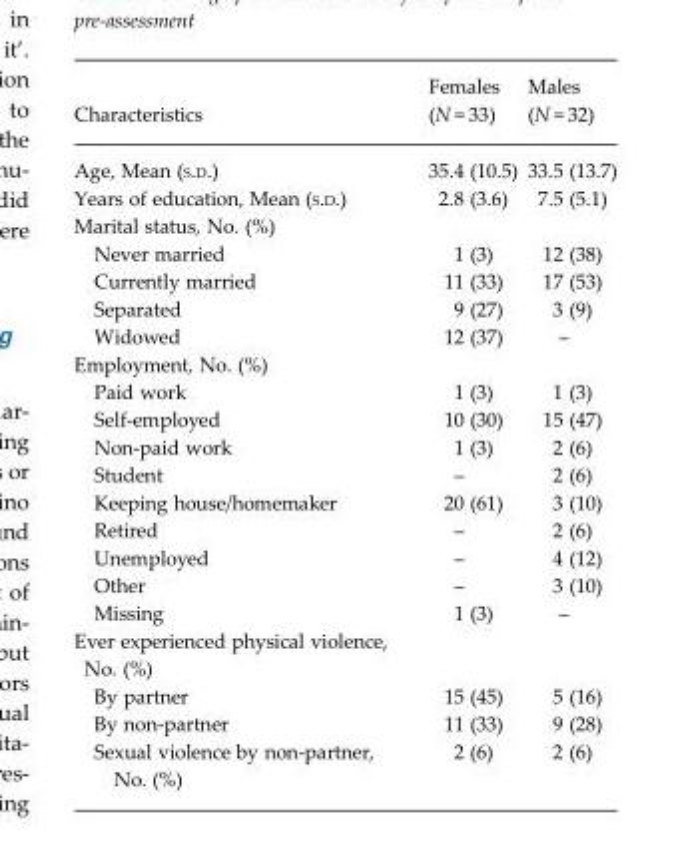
<table><thead><tr><td>Characteristics</td><td>Females (N = 33)</td><td>Males (N = 32)</td></tr></thead><tbody><tr><td>Age, Mean (S.D.)</td><td>35.4 (10.5)</td><td>33.5 (13.7)</td></tr><tr><td>Years of education, Mean (S.D.)</td><td>2.8 (3.6)</td><td>7.5 (5.1)</td></tr><tr><td colspan="3">Marital status, No. (%)</td></tr><tr><td>Never married</td><td>1 (3)</td><td>12 (38)</td></tr><tr><td>Currently married</td><td>11 (33)</td><td>17 (53)</td></tr><tr><td>Separated</td><td>9 (27)</td><td>3 (9)</td></tr><tr><td>Widowed</td><td>12 (37)</td><td>–</td></tr><tr><td colspan="3">Employment, No. (%)</td></tr><tr><td>Paid work</td><td>1 (3)</td><td>1 (3)</td></tr><tr><td>Self-employed</td><td>10 (30)</td><td>15 (47)</td></tr><tr><td>Non-paid work</td><td>1 (3)</td><td>2 (6)</td></tr><tr><td>Student</td><td>–</td><td>2 (6)</td></tr><tr><td>Keeping house/homemaker</td><td>20 (61)</td><td>3 (10)</td></tr><tr><td>Retired</td><td>–</td><td>2 (6)</td></tr><tr><td>Unemployed</td><td>–</td><td>4 (12)</td></tr><tr><td>Other</td><td>–</td><td>3 (10)</td></tr><tr><td>Missing</td><td>1 (3)</td><td>–</td></tr><tr><td colspan="3">Ever experienced physical violence, No. (%)</td></tr><tr><td>By partner</td><td>15 (45)</td><td>5 (16)</td></tr><tr><td>By non-partner</td><td>11 (33)</td><td>9 (28)</td></tr><tr><td>Sexual violence by non-partner, No. (%)</td><td>2 (6)</td><td>2 (6)</td></tr></tbody></table>